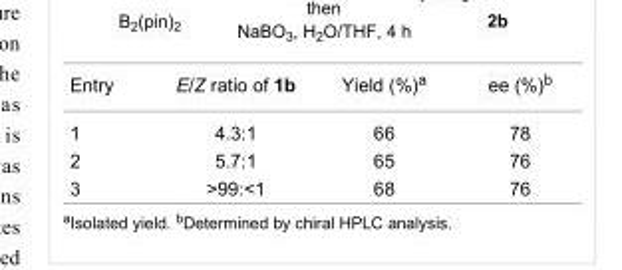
<table><tbody><tr><td>Entry</td><td>E/Z ratio of 1b</td><td>Yield (%)<sup>a</sup></td><td>ee (%)<sup>b</sup></td></tr><tr><td>1</td><td>4.3:1</td><td>66</td><td>78</td></tr><tr><td>2</td><td>5.7:1</td><td>65</td><td>76</td></tr><tr><td>3</td><td>&gt;99:&lt;1</td><td>68</td><td>76</td></tr></tbody></table>